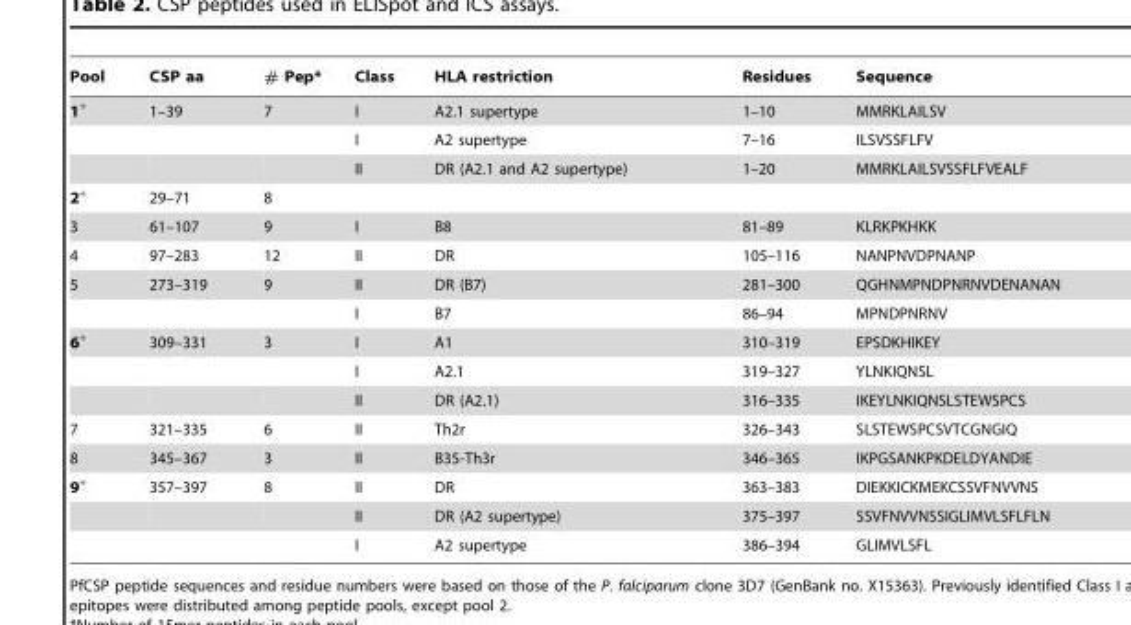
<table><thead><tr><td>Pool</td><td>CSP aa</td><td># Pep*</td><td>Class</td><td>HLA restriction</td><td>Residues</td><td>Sequence</td></tr></thead><tbody><tr><td rowspan="3">1+</td><td>1–39</td><td>7</td><td>I</td><td>A2.1 supertype</td><td>1–10</td><td>MMRKLAILSV</td></tr><tr><td></td><td></td><td>I</td><td>A2 supertype</td><td>7–16</td><td>ILSVSSFLFV</td></tr><tr><td></td><td></td><td>II</td><td>DR (A2.1 and A2 supertype)</td><td>1–20</td><td>MMRKLAILSVSSFLFVEALF</td></tr><tr><td>2+</td><td>29–71</td><td>8</td><td></td><td></td><td></td><td></td></tr><tr><td>3</td><td>61–107</td><td>9</td><td>I</td><td>B8</td><td>81–89</td><td>KLRKPKHKK</td></tr><tr><td>4</td><td>97–283</td><td>12</td><td>II</td><td>DR</td><td>105–116</td><td>NANPNVDPNANP</td></tr><tr><td rowspan="2">5</td><td>273–319</td><td>9</td><td>II</td><td>DR (B7)</td><td>281–300</td><td>QGHNMPNDPNRNVDENANAN</td></tr><tr><td></td><td></td><td>I</td><td>B7</td><td>86–94</td><td>MPNDPNRNV</td></tr><tr><td rowspan="3">6+</td><td>309–331</td><td>3</td><td>I</td><td>A1</td><td>310–319</td><td>EPSDKHIKEY</td></tr><tr><td></td><td></td><td>I</td><td>A2.1</td><td>319–327</td><td>YLNKIQNSL</td></tr><tr><td></td><td></td><td>II</td><td>DR (A2.1)</td><td>316–335</td><td>IKEYLNKIQNSLSTEWSPCS</td></tr><tr><td>7</td><td>321–335</td><td>6</td><td>II</td><td>Th2r</td><td>326–343</td><td>SLSTEWSPCSVTCGNGIQ</td></tr><tr><td>8</td><td>345–367</td><td>3</td><td>II</td><td>B35-Th3r</td><td>346–365</td><td>IKPGSANKPKDELDYANDIE</td></tr><tr><td rowspan="3">9+</td><td>357–397</td><td>8</td><td>II</td><td>DR</td><td>363–383</td><td>DIEKKICKMEKCSSVFNVVNS</td></tr><tr><td></td><td></td><td>II</td><td>DR (A2 supertype)</td><td>375–397</td><td>SSVFNVVNSSIGLIMVLSFLFLN</td></tr><tr><td></td><td></td><td>I</td><td>A2 supertype</td><td>386–394</td><td>GLIMVLSFL</td></tr></tbody></table>